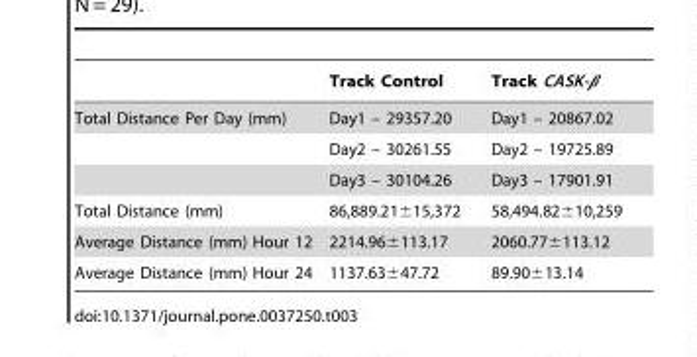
<table><thead><tr><td></td><td>Track Control</td><td>Track CASK-β</td></tr></thead><tbody><tr><td rowspan="3">Total Distance Per Day (mm)</td><td>Day1 – 29357.20</td><td>Day1 – 20867.02</td></tr><tr><td>Day2 – 30261.55</td><td>Day2 – 19725.89</td></tr><tr><td>Day3 – 30104.26</td><td>Day3 – 17901.91</td></tr><tr><td>Total Distance (mm)</td><td>86,889.21±15,372</td><td>58,494.82±10,259</td></tr><tr><td>Average Distance (mm) Hour 12</td><td>2214.96±113.17</td><td>2060.77±113.12</td></tr><tr><td>Average Distance (mm) Hour 24</td><td>1137.63±47.72</td><td>89.90±13.14</td></tr></tbody></table>